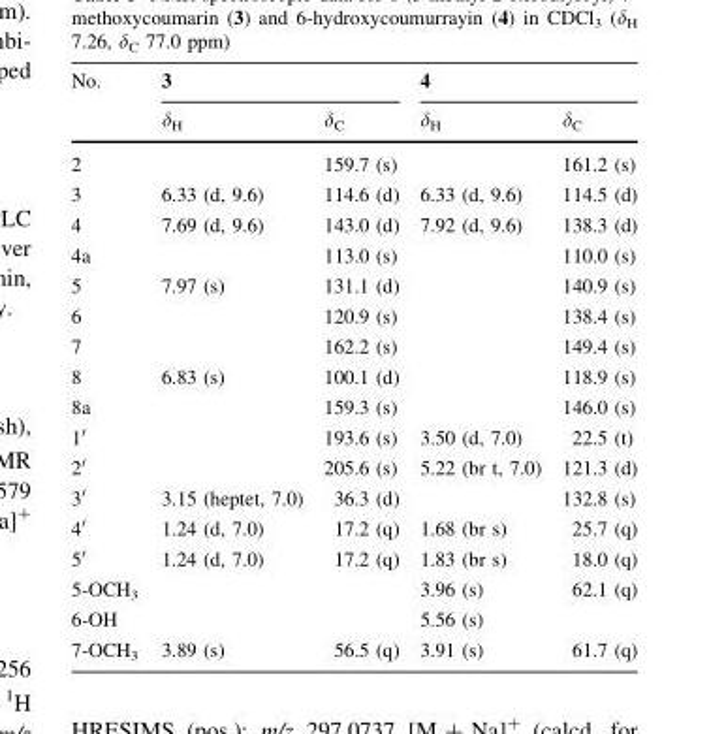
<table><thead><tr><td rowspan="2">No.</td><td colspan="2">3</td><td colspan="2">4</td></tr><tr><td>δ<sub>H</sub></td><td>δ<sub>C</sub></td><td>δ<sub>H</sub></td><td>δ<sub>C</sub></td></tr></thead><tbody><tr><td>2</td><td></td><td>159.7 (s)</td><td></td><td>161.2 (s)</td></tr><tr><td>3</td><td>6.33 (d, 9.6)</td><td>114.6 (d)</td><td>6.33 (d, 9.6)</td><td>114.5 (d)</td></tr><tr><td>4</td><td>7.69 (d, 9.6)</td><td>143.0 (d)</td><td>7.92 (d, 9.6)</td><td>138.3 (d)</td></tr><tr><td>4a</td><td></td><td>113.0 (s)</td><td></td><td>110.0 (s)</td></tr><tr><td>5</td><td>7.97 (s)</td><td>131.1 (d)</td><td></td><td>140.9 (s)</td></tr><tr><td>6</td><td></td><td>120.9 (s)</td><td></td><td>138.4 (s)</td></tr><tr><td>7</td><td></td><td>162.2 (s)</td><td></td><td>149.4 (s)</td></tr><tr><td>8</td><td>6.83 (s)</td><td>100.1 (d)</td><td></td><td>118.9 (s)</td></tr><tr><td>8a</td><td></td><td>159.3 (s)</td><td></td><td>146.0 (s)</td></tr><tr><td>1′</td><td></td><td>193.6 (s)</td><td>3.50 (d, 7.0)</td><td>22.5 (t)</td></tr><tr><td>2′</td><td></td><td>205.6 (s)</td><td>5.22 (br t, 7.0)</td><td>121.3 (d)</td></tr><tr><td>3′</td><td>3.15 (heptet, 7.0)</td><td>36.3 (d)</td><td></td><td>132.8 (s)</td></tr><tr><td>4′</td><td>1.24 (d, 7.0)</td><td>17.2 (q)</td><td>1.68 (br s)</td><td>25.7 (q)</td></tr><tr><td>5′</td><td>1.24 (d, 7.0)</td><td>17.2 (q)</td><td>1.83 (br s)</td><td>18.0 (q)</td></tr><tr><td>5-OCH<sub>3</sub></td><td></td><td></td><td>3.96 (s)</td><td>62.1 (q)</td></tr><tr><td>6-OH</td><td></td><td></td><td>5.56 (s)</td><td></td></tr><tr><td>7-OCH<sub>3</sub></td><td>3.89 (s)</td><td>56.5 (q)</td><td>3.91 (s)</td><td>61.7 (q)</td></tr></tbody></table>